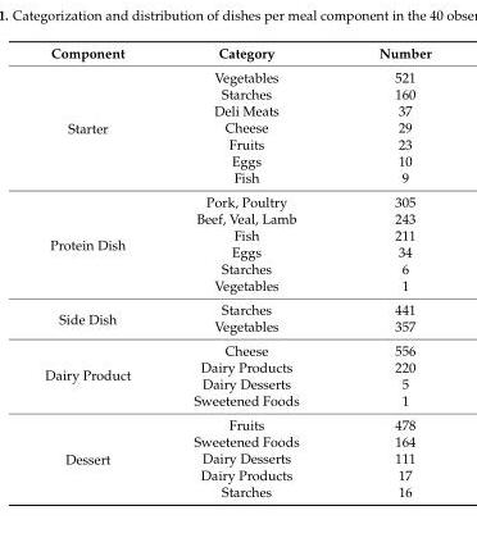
<table><thead><tr><td>Component</td><td>Category</td><td>Number</td></tr></thead><tbody><tr><td rowspan="7">Starter</td><td>Vegetables</td><td>521</td></tr><tr><td>Starches</td><td>160</td></tr><tr><td>Deli Meats</td><td>37</td></tr><tr><td>Cheese</td><td>29</td></tr><tr><td>Fruits</td><td>23</td></tr><tr><td>Eggs</td><td>10</td></tr><tr><td>Fish</td><td>9</td></tr><tr><td rowspan="6">Protein Dish</td><td>Pork, Poultry</td><td>305</td></tr><tr><td>Beef, Veal, Lamb</td><td>243</td></tr><tr><td>Fish</td><td>211</td></tr><tr><td>Eggs</td><td>34</td></tr><tr><td>Starches</td><td>6</td></tr><tr><td>Vegetables</td><td>1</td></tr><tr><td rowspan="2">Side Dish</td><td>Starches</td><td>441</td></tr><tr><td>Vegetables</td><td>357</td></tr><tr><td rowspan="4">Dairy Product</td><td>Cheese</td><td>556</td></tr><tr><td>Dairy Products</td><td>220</td></tr><tr><td>Dairy Desserts</td><td>5</td></tr><tr><td>Sweetened Foods</td><td>1</td></tr><tr><td rowspan="5">Dessert</td><td>Fruits</td><td>478</td></tr><tr><td>Sweetened Foods</td><td>164</td></tr><tr><td>Dairy Desserts</td><td>111</td></tr><tr><td>Dairy Products</td><td>17</td></tr><tr><td>Starches</td><td>16</td></tr></tbody></table>